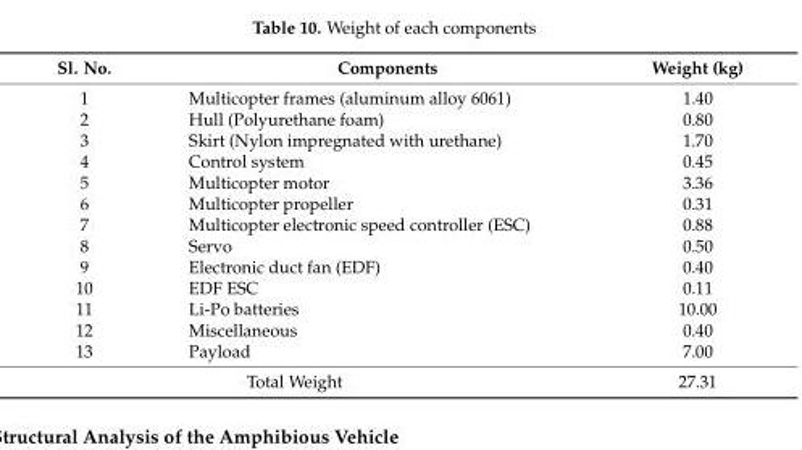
<table><thead><tr><td>Sl. No.</td><td>Components</td><td>Weight (kg)</td></tr></thead><tbody><tr><td>1</td><td>Multicopter frames (aluminum alloy 6061)</td><td>1.40</td></tr><tr><td>2</td><td>Hull (Polyurethane foam)</td><td>0.80</td></tr><tr><td>3</td><td>Skirt (Nylon impregnated with urethane)</td><td>1.70</td></tr><tr><td>4</td><td>Control system</td><td>0.45</td></tr><tr><td>5</td><td>Multicopter motor</td><td>3.36</td></tr><tr><td>6</td><td>Multicopter propeller</td><td>0.31</td></tr><tr><td>7</td><td>Multicopter electronic speed controller (ESC)</td><td>0.88</td></tr><tr><td>8</td><td>Servo</td><td>0.50</td></tr><tr><td>9</td><td>Electronic duct fan (EDF)</td><td>0.40</td></tr><tr><td>10</td><td>EDF ESC</td><td>0.11</td></tr><tr><td>11</td><td>Li-Po batteries</td><td>10.00</td></tr><tr><td>12</td><td>Miscellaneous</td><td>0.40</td></tr><tr><td>13</td><td>Payload</td><td>7.00</td></tr><tr><td colspan="2">Total Weight</td><td>27.31</td></tr></tbody></table>